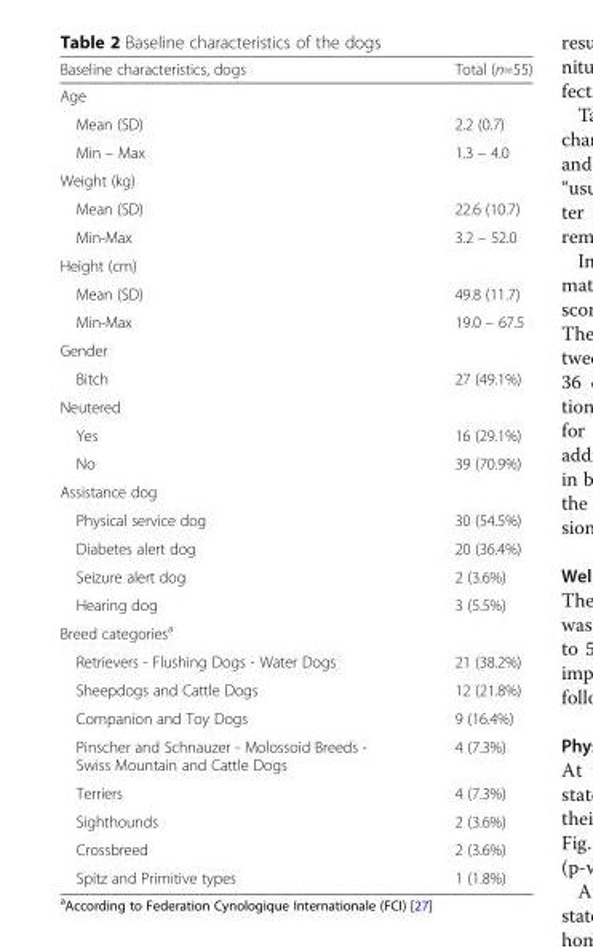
<table><thead><tr><td>Baseline characteristics, dogs</td><td>Total (n=55)</td></tr></thead><tbody><tr><td colspan="2">Age</td></tr><tr><td>Mean (SD)</td><td>2.2 (0.7)</td></tr><tr><td>Min – Max</td><td>1.3 – 4.0</td></tr><tr><td colspan="2">Weight (kg)</td></tr><tr><td>Mean (SD)</td><td>22.6 (10.7)</td></tr><tr><td>Min-Max</td><td>3.2 – 52.0</td></tr><tr><td colspan="2">Height (cm)</td></tr><tr><td>Mean (SD)</td><td>49.8 (11.7)</td></tr><tr><td>Min-Max</td><td>19.0 – 67.5</td></tr><tr><td colspan="2">Gender</td></tr><tr><td>Bitch</td><td>27 (49.1%)</td></tr><tr><td colspan="2">Neutered</td></tr><tr><td>Yes</td><td>16 (29.1%)</td></tr><tr><td>No</td><td>39 (70.9%)</td></tr><tr><td colspan="2">Assistance dog</td></tr><tr><td>Physical service dog</td><td>30 (54.5%)</td></tr><tr><td>Diabetes alert dog</td><td>20 (36.4%)</td></tr><tr><td>Seizure alert dog</td><td>2 (3.6%)</td></tr><tr><td>Hearing dog</td><td>3 (5.5%)</td></tr><tr><td colspan="2">Breed categories<sup>a</sup></td></tr><tr><td>Retrievers - Flushing Dogs - Water Dogs</td><td>21 (38.2%)</td></tr><tr><td>Sheepdogs and Cattle Dogs</td><td>12 (21.8%)</td></tr><tr><td>Companion and Toy Dogs</td><td>9 (16.4%)</td></tr><tr><td>Pinscher and Schnauzer - Molossoid Breeds - Swiss Mountain and Cattle Dogs</td><td>4 (7.3%)</td></tr><tr><td>Terriers</td><td>4 (7.3%)</td></tr><tr><td>Sighthounds</td><td>2 (3.6%)</td></tr><tr><td>Crossbreed</td><td>2 (3.6%)</td></tr><tr><td>Spitz and Primitive types</td><td>1 (1.8%)</td></tr></tbody></table>